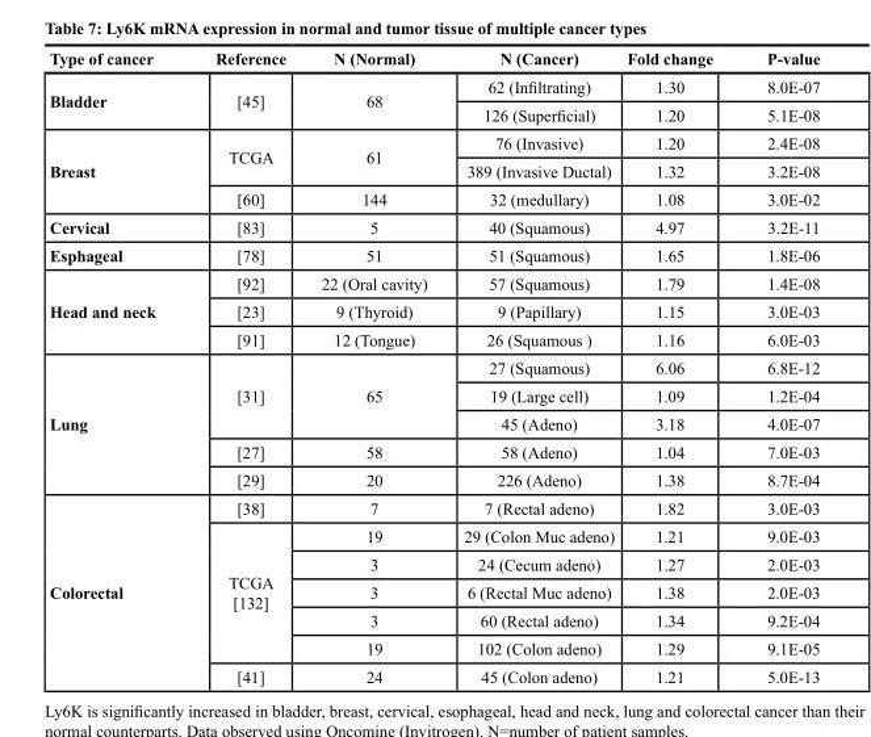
<table><thead><tr><td>Type of cancer</td><td>Reference</td><td>N (Normal)</td><td>N (Cancer)</td><td>Fold change</td><td>P-value</td></tr></thead><tbody><tr><td rowspan="2">Bladder</td><td rowspan="2">[45]</td><td rowspan="2">68</td><td>62 (Infiltrating)</td><td>1.30</td><td>8.0E-07</td></tr><tr><td>126 (Superficial)</td><td>1.20</td><td>5.1E-08</td></tr><tr><td rowspan="3">Breast</td><td rowspan="2">TCGA</td><td rowspan="2">61</td><td>76 (Invasive)</td><td>1.20</td><td>2.4E-08</td></tr><tr><td>389 (Invasive Ductal)</td><td>1.32</td><td>3.2E-08</td></tr><tr><td>[60]</td><td>144</td><td>32 (medullary)</td><td>1.08</td><td>3.0E-02</td></tr><tr><td>Cervical</td><td>[83]</td><td>5</td><td>40 (Squamous)</td><td>4.97</td><td>3.2E-11</td></tr><tr><td>Esphageal</td><td>[78]</td><td>51</td><td>51 (Squamous)</td><td>1.65</td><td>1.8E-06</td></tr><tr><td rowspan="3">Head and neck</td><td>[92]</td><td>22 (Oral cavity)</td><td>57 (Squamous)</td><td>1.79</td><td>1.4E-08</td></tr><tr><td>[23]</td><td>9 (Thyroid)</td><td>9 (Papillary)</td><td>1.15</td><td>3.0E-03</td></tr><tr><td>[91]</td><td>12 (Tongue)</td><td>26 (Squamous )</td><td>1.16</td><td>6.0E-03</td></tr><tr><td rowspan="5">Lung</td><td rowspan="3">[31]</td><td rowspan="3">65</td><td>27 (Squamous)</td><td>6.06</td><td>6.8E-12</td></tr><tr><td>19 (Large cell)</td><td>1.09</td><td>1.2E-04</td></tr><tr><td>45 (Adeno)</td><td>3.18</td><td>4.0E-07</td></tr><tr><td>[27]</td><td>58</td><td>58 (Adeno)</td><td>1.04</td><td>7.0E-03</td></tr><tr><td>[29]</td><td>20</td><td>226 (Adeno)</td><td>1.38</td><td>8.7E-04</td></tr><tr><td rowspan="7">Colorectal</td><td>[38]</td><td>7</td><td>7 (Rectal adeno)</td><td>1.82</td><td>3.0E-03</td></tr><tr><td rowspan="5">TCGA [132]</td><td>19</td><td>29 (Colon Muc adeno)</td><td>1.21</td><td>9.0E-03</td></tr><tr><td>3</td><td>24 (Cecum adeno)</td><td>1.27</td><td>2.0E-03</td></tr><tr><td>3</td><td>6 (Rectal Muc adeno)</td><td>1.38</td><td>2.0E-03</td></tr><tr><td>3</td><td>60 (Rectal adeno)</td><td>1.34</td><td>9.2E-04</td></tr><tr><td>19</td><td>102 (Colon adeno)</td><td>1.29</td><td>9.1E-05</td></tr><tr><td>[41]</td><td>24</td><td>45 (Colon adeno)</td><td>1.21</td><td>5.0E-13</td></tr></tbody></table>